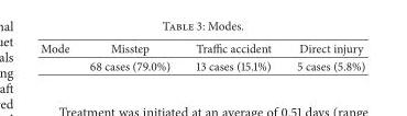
<table><thead><tr><td>Mode</td><td>Misstep</td><td>Traffic accident</td><td>Direct injury</td></tr></thead><tbody><tr><td></td><td>68 cases (79.0%)</td><td>13 cases (15.1%)</td><td>5 cases (5.8%)</td></tr></tbody></table>